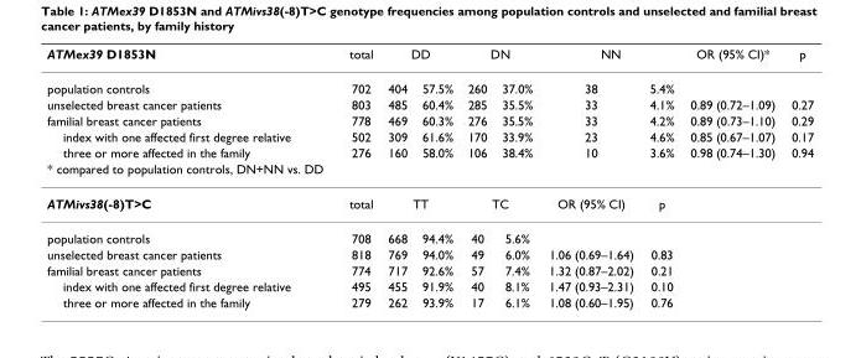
<table><thead><tr><td rowspan="2">ATMex39 D1853N population controls</td><td rowspan="2">total 702</td><td colspan="2">DD</td><td colspan="2">DN</td><td colspan="2">NN</td><td rowspan="2">OR (95% CI)*</td><td rowspan="2">p</td></tr><tr><td>404</td><td>57.5%</td><td>260</td><td>37.0%</td><td>38</td><td>5.4%</td></tr></thead><tbody><tr><td>unselected breast cancer patients</td><td>803</td><td>485</td><td>60.4%</td><td>285</td><td>35.5%</td><td>33</td><td>4.1%</td><td>0.89 (0.72–1.09)</td><td>0.27</td></tr><tr><td>familial breast cancer patients</td><td>778</td><td>469</td><td>60.3%</td><td>276</td><td>35.5%</td><td>33</td><td>4.2%</td><td>0.89 (0.73–1.10)</td><td>0.29</td></tr><tr><td>index with one affected first degree relative</td><td>502</td><td>309</td><td>61.6%</td><td>170</td><td>33.9%</td><td>23</td><td>4.6%</td><td>0.85 (0.67–1.07)</td><td>0.17</td></tr><tr><td>three or more affected in the family</td><td>276</td><td>160</td><td>58.0%</td><td>106</td><td>38.4%</td><td>10</td><td>3.6%</td><td>0.98 (0.74–1.30)</td><td>0.94</td></tr><tr><td colspan="10">* compared to population controls, DN+NN vs. DD</td></tr><tr><td>ATMivs38(-8)T&gt;C</td><td>total</td><td colspan="2">TT</td><td colspan="2">TC</td><td>OR (95% CI)</td><td>p</td><td></td><td></td></tr><tr><td>population controls</td><td>708</td><td>668</td><td>94.4%</td><td>40</td><td>5.6%</td><td></td><td></td><td></td><td></td></tr><tr><td>unselected breast cancer patients</td><td>818</td><td>769</td><td>94.0%</td><td>49</td><td>6.0%</td><td>1.06 (0.69–1.64)</td><td>0.83</td><td></td><td></td></tr><tr><td>familial breast cancer patients</td><td>774</td><td>717</td><td>92.6%</td><td>57</td><td>7.4%</td><td>1.32 (0.87–2.02)</td><td>0.21</td><td></td><td></td></tr><tr><td>index with one affected first degree relative</td><td>495</td><td>455</td><td>91.9%</td><td>40</td><td>8.1%</td><td>1.47 (0.93–2.31)</td><td>0.10</td><td></td><td></td></tr><tr><td>three or more affected in the family</td><td>279</td><td>262</td><td>93.9%</td><td>17</td><td>6.1%</td><td>1.08 (0.60–1.95)</td><td>0.76</td><td></td><td></td></tr></tbody></table>